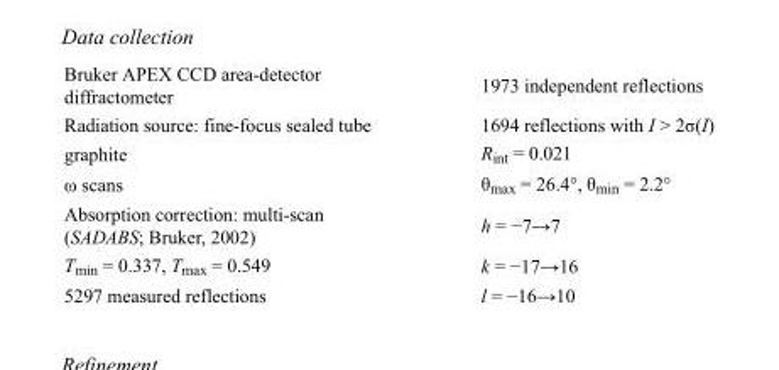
<table><tbody><tr><td>Bruker APEX CCD area-detector diffractometer</td><td>1973 independent reflections</td></tr><tr><td>Radiation source: fine-focus sealed tube</td><td>1694 reflections with I &gt; 2σ(I)</td></tr><tr><td>graphite</td><td>R<sub>int</sub> = 0.021</td></tr><tr><td>ω scans</td><td>θ<sub>max</sub> = 26.4°, θ<sub>min</sub> = 2.2°</td></tr><tr><td>Absorption correction: multi-scan (SADABS; Bruker, 2002)</td><td>h = −7→7</td></tr><tr><td>T<sub>min</sub> = 0.337, T<sub>max</sub> = 0.549</td><td>k = −17→16</td></tr><tr><td>5297 measured reflections</td><td>l = −16→10</td></tr></tbody></table>